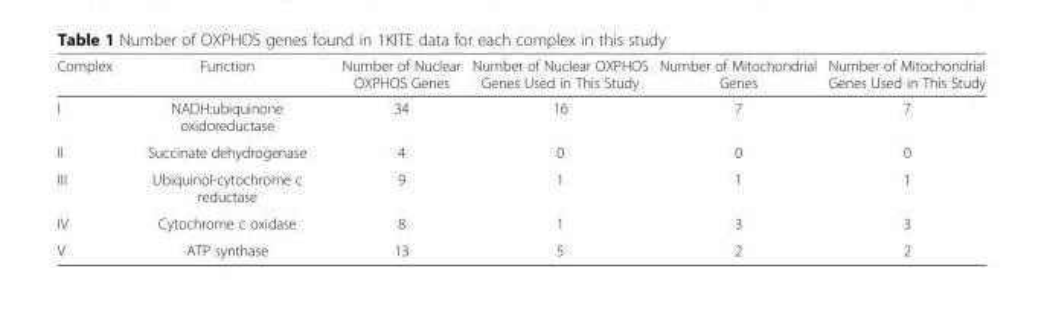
<table><thead><tr><td>Complex</td><td>Function</td><td>Number of Nuclear OXPHOS Genes</td><td>Number of Nuclear OXPHOS Genes Used in This Study</td><td>Number of Mitochondrial Genes</td><td>Number of Mitochondrial Genes Used in This Study</td></tr></thead><tbody><tr><td>I</td><td>NADH:ubiquinone oxidoreductase</td><td>34</td><td>16</td><td>7</td><td>7</td></tr><tr><td>II</td><td>Succinate dehydrogenase</td><td>4</td><td>0</td><td>0</td><td>0</td></tr><tr><td>III</td><td>Ubiquinol-cytochrome c reductase</td><td>9</td><td>1</td><td>1</td><td>1</td></tr><tr><td>IV</td><td>Cytochrome c oxidase</td><td>8</td><td>1</td><td>3</td><td>3</td></tr><tr><td>V</td><td>ATP synthase</td><td>13</td><td>5</td><td>2</td><td>2</td></tr></tbody></table>